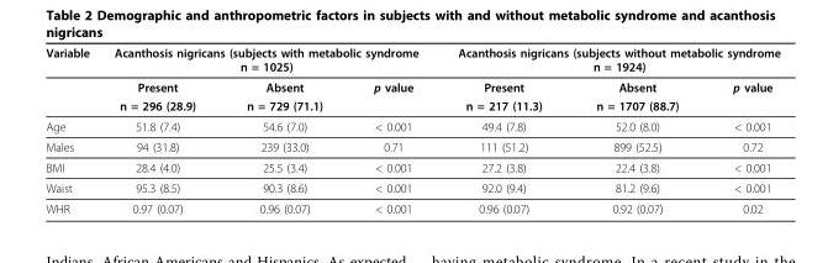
<table><thead><tr><td rowspan="2">Variable</td><td colspan="3">Acanthosis nigricans (subjects with metabolic syndrome n = 1025)</td><td colspan="3">Acanthosis nigricans (subjects without metabolic syndrome n = 1924)</td></tr><tr><td>Present</td><td>Absent</td><td>p value</td><td>Present</td><td>Absent</td><td>p value</td></tr></thead><tbody><tr><td></td><td>n = 296 (28.9)</td><td>n = 729 (71.1)</td><td></td><td>n = 217 (11.3)</td><td>n = 1707 (88.7)</td><td></td></tr><tr><td>Age</td><td>51.8 (7.4)</td><td>54.6 (7.0)</td><td>&lt; 0.001</td><td>49.4 (7.8)</td><td>52.0 (8.0)</td><td>&lt; 0.001</td></tr><tr><td>Males</td><td>94 (31.8)</td><td>239 (33.0)</td><td>0.71</td><td>111 (51.2)</td><td>899 (52.5)</td><td>0.72</td></tr><tr><td>BMI</td><td>28.4 (4.0)</td><td>25.5 (3.4)</td><td>&lt; 0.001</td><td>27.2 (3.8)</td><td>22.4 (3.8)</td><td>&lt; 0.001</td></tr><tr><td>Waist</td><td>95.3 (8.5)</td><td>90.3 (8.6)</td><td>&lt; 0.001</td><td>92.0 (9.4)</td><td>81.2 (9.6)</td><td>&lt; 0.001</td></tr><tr><td>WHR</td><td>0.97 (0.07)</td><td>0.96 (0.07)</td><td>&lt; 0.001</td><td>0.96 (0.07)</td><td>0.92 (0.07)</td><td>0.02</td></tr></tbody></table>